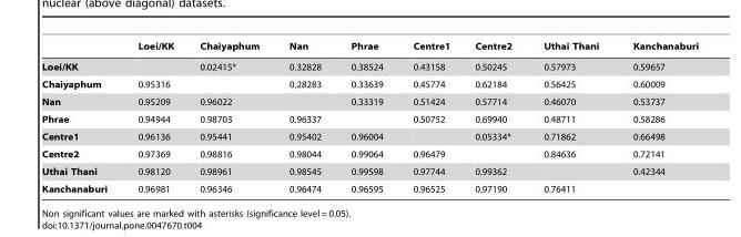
<table><thead><tr><td></td><td>Loei/KK</td><td>Chaiyaphum</td><td>Nan</td><td>Phrae</td><td>Centre1</td><td>Centre2</td><td>Uthai Thani</td><td>Kanchanaburi</td></tr></thead><tbody><tr><td>Loei/KK</td><td></td><td>0.02415*</td><td>0.32828</td><td>0.38524</td><td>0.43158</td><td>0.50245</td><td>0.57973</td><td>0.59657</td></tr><tr><td>Chaiyaphum</td><td>0.95316</td><td></td><td>0.28283</td><td>0.33639</td><td>0.45774</td><td>0.62184</td><td>0.56425</td><td>0.60009</td></tr><tr><td>Nan</td><td>0.95209</td><td>0.96022</td><td></td><td>0.33319</td><td>0.51424</td><td>0.57714</td><td>0.46070</td><td>0.53737</td></tr><tr><td>Phrae</td><td>0.94944</td><td>0.98703</td><td>0.96337</td><td></td><td>0.50752</td><td>0.69940</td><td>0.48711</td><td>0.58286</td></tr><tr><td>Centre1</td><td>0.96136</td><td>0.95441</td><td>0.95402</td><td>0.96004</td><td></td><td>0.05334*</td><td>0.71862</td><td>0.66498</td></tr><tr><td>Centre2</td><td>0.97369</td><td>0.98816</td><td>0.98044</td><td>0.99064</td><td>0.96479</td><td></td><td>0.84636</td><td>0.72141</td></tr><tr><td>Uthai Thani</td><td>0.98120</td><td>0.98961</td><td>0.98545</td><td>0.99598</td><td>0.97744</td><td>0.99362</td><td></td><td>0.42344</td></tr><tr><td>Kanchanaburi</td><td>0.96981</td><td>0.96346</td><td>0.96474</td><td>0.96595</td><td>0.96525</td><td>0.97190</td><td>0.76411</td><td></td></tr></tbody></table>